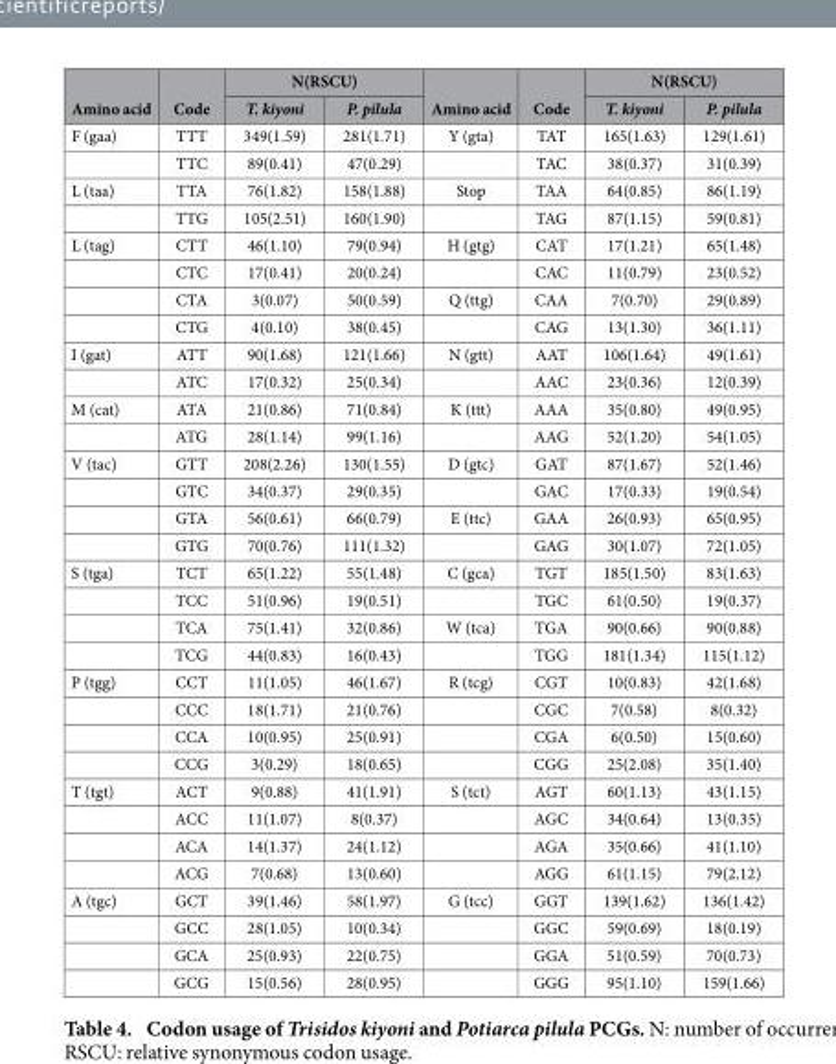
<table><thead><tr><td rowspan="2">Amino acid</td><td rowspan="2">Code</td><td colspan="2">N(RSCU)</td><td rowspan="2">Amino acid</td><td rowspan="2">Code</td><td colspan="2">N(RSCU)</td></tr><tr><td>T. kiyoni</td><td>P. pilula</td><td>T. kiyoni</td><td>P. pilula</td></tr></thead><tbody><tr><td rowspan="2">F (gaa)</td><td>TTT</td><td>349(1.59)</td><td>281(1.71)</td><td>Y (gta)</td><td>TAT</td><td>165(1.63)</td><td>129(1.61)</td></tr><tr><td>TTC</td><td>89(0.41)</td><td>47(0.29)</td><td></td><td>TAC</td><td>38(0.37)</td><td>31(0.39)</td></tr><tr><td rowspan="2">L (taa)</td><td>TTA</td><td>76(1.82)</td><td>158(1.88)</td><td>Stop</td><td>TAA</td><td>64(0.85)</td><td>86(1.19)</td></tr><tr><td>TTG</td><td>105(2.51)</td><td>160(1.90)</td><td></td><td>TAG</td><td>87(1.15)</td><td>59(0.81)</td></tr><tr><td rowspan="4">L (tag)</td><td>CTT</td><td>46(1.10)</td><td>79(0.94)</td><td>H (gtg)</td><td>CAT</td><td>17(1.21)</td><td>65(1.48)</td></tr><tr><td>CTC</td><td>17(0.41)</td><td>20(0.24)</td><td></td><td>CAC</td><td>11(0.79)</td><td>23(0.52)</td></tr><tr><td>CTA</td><td>3(0.07)</td><td>50(0.59)</td><td>Q (ttg)</td><td>CAA</td><td>7(0.70)</td><td>29(0.89)</td></tr><tr><td>CTG</td><td>4(0.10)</td><td>38(0.45)</td><td></td><td>CAG</td><td>13(1.30)</td><td>36(1.11)</td></tr><tr><td rowspan="2">I (gat)</td><td>ATT</td><td>90(1.68)</td><td>121(1.66)</td><td>N (gtt)</td><td>AAT</td><td>106(1.64)</td><td>49(1.61)</td></tr><tr><td>ATC</td><td>17(0.32)</td><td>25(0.34)</td><td></td><td>AAC</td><td>23(0.36)</td><td>12(0.39)</td></tr><tr><td rowspan="2">M (cat)</td><td>ATA</td><td>21(0.86)</td><td>71(0.84)</td><td>K (ttt)</td><td>AAA</td><td>35(0.80)</td><td>49(0.95)</td></tr><tr><td>ATG</td><td>28(1.14)</td><td>99(1.16)</td><td></td><td>AAG</td><td>52(1.20)</td><td>54(1.05)</td></tr><tr><td rowspan="4">V (tac)</td><td>GTT</td><td>208(2.26)</td><td>130(1.55)</td><td>D (gtc)</td><td>GAT</td><td>87(1.67)</td><td>52(1.46)</td></tr><tr><td>GTC</td><td>34(0.37)</td><td>29(0.35)</td><td></td><td>GAC</td><td>17(0.33)</td><td>19(0.54)</td></tr><tr><td>GTA</td><td>56(0.61)</td><td>66(0.79)</td><td>E (ttc)</td><td>GAA</td><td>26(0.93)</td><td>65(0.95)</td></tr><tr><td>GTG</td><td>70(0.76)</td><td>111(1.32)</td><td></td><td>GAG</td><td>30(1.07)</td><td>72(1.05)</td></tr><tr><td rowspan="4">S (tga)</td><td>TCT</td><td>65(1.22)</td><td>55(1.48)</td><td>C (gca)</td><td>TGT</td><td>185(1.50)</td><td>83(1.63)</td></tr><tr><td>TCC</td><td>51(0.96)</td><td>19(0.51)</td><td></td><td>TGC</td><td>61(0.50)</td><td>19(0.37)</td></tr><tr><td>TCA</td><td>75(1.41)</td><td>32(0.86)</td><td>W (tca)</td><td>TGA</td><td>90(0.66)</td><td>90(0.88)</td></tr><tr><td>TCG</td><td>44(0.83)</td><td>16(0.43)</td><td></td><td>TGG</td><td>181(1.34)</td><td>115(1.12)</td></tr><tr><td rowspan="4">P (tgg)</td><td>CCT</td><td>11(1.05)</td><td>46(1.67)</td><td>R (tcg)</td><td>CGT</td><td>10(0.83)</td><td>42(1.68)</td></tr><tr><td>CCC</td><td>18(1.71)</td><td>21(0.76)</td><td></td><td>CGC</td><td>7(0.58)</td><td>8(0.32)</td></tr><tr><td>CCA</td><td>10(0.95)</td><td>25(0.91)</td><td></td><td>CGA</td><td>6(0.50)</td><td>15(0.60)</td></tr><tr><td>CCG</td><td>3(0.29)</td><td>18(0.65)</td><td></td><td>CGG</td><td>25(2.08)</td><td>35(1.40)</td></tr><tr><td rowspan="4">T (tgt)</td><td>ACT</td><td>9(0.88)</td><td>41(1.91)</td><td>S (tct)</td><td>AGT</td><td>60(1.13)</td><td>43(1.15)</td></tr><tr><td>ACC</td><td>11(1.07)</td><td>8(0.37)</td><td></td><td>AGC</td><td>34(0.64)</td><td>13(0.35)</td></tr><tr><td>ACA</td><td>14(1.37)</td><td>24(1.12)</td><td></td><td>AGA</td><td>35(0.66)</td><td>41(1.10)</td></tr><tr><td>ACG</td><td>7(0.68)</td><td>13(0.60)</td><td></td><td>AGG</td><td>61(1.15)</td><td>79(2.12)</td></tr><tr><td rowspan="4">A (tgc)</td><td>GCT</td><td>39(1.46)</td><td>58(1.97)</td><td>G (tcc)</td><td>GGT</td><td>139(1.62)</td><td>136(1.42)</td></tr><tr><td>GCC</td><td>28(1.05)</td><td>10(0.34)</td><td></td><td>GGC</td><td>59(0.69)</td><td>18(0.19)</td></tr><tr><td>GCA</td><td>25(0.93)</td><td>22(0.75)</td><td></td><td>GGA</td><td>51(0.59)</td><td>70(0.73)</td></tr><tr><td>GCG</td><td>15(0.56)</td><td>28(0.95)</td><td></td><td>GGG</td><td>95(1.10)</td><td>159(1.66)</td></tr></tbody></table>